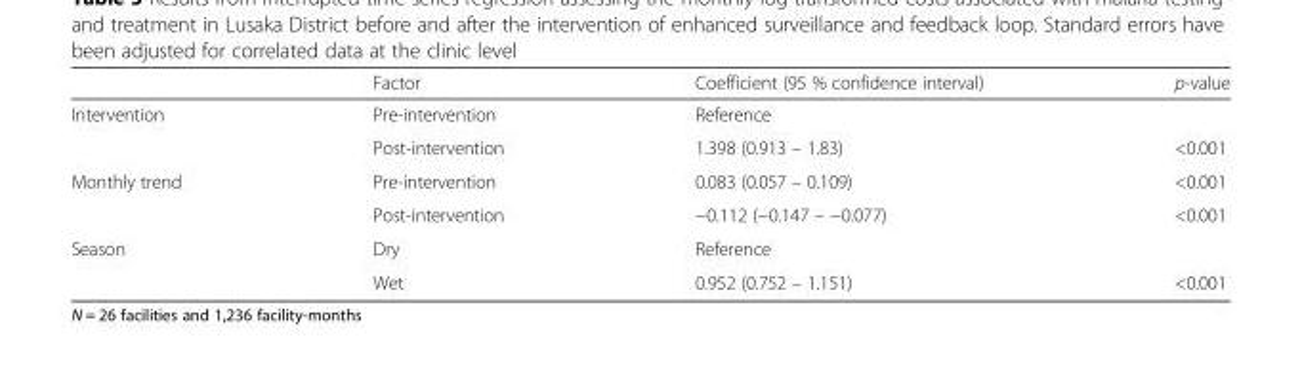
<table><thead><tr><td></td><td>Factor</td><td>Coefficient (95 % confidence interval)</td><td>p-value</td></tr></thead><tbody><tr><td rowspan="2">Intervention</td><td>Pre-intervention</td><td>Reference</td><td></td></tr><tr><td>Post-intervention</td><td>1.398 (0.913 – 1.83)</td><td>&lt;0.001</td></tr><tr><td rowspan="2">Monthly trend</td><td>Pre-intervention</td><td>0.083 (0.057 – 0.109)</td><td>&lt;0.001</td></tr><tr><td>Post-intervention</td><td>−0.112 (−0.147 – −0.077)</td><td>&lt;0.001</td></tr><tr><td rowspan="2">Season</td><td>Dry</td><td>Reference</td><td></td></tr><tr><td>Wet</td><td>0.952 (0.752 – 1.151)</td><td>&lt;0.001</td></tr></tbody></table>